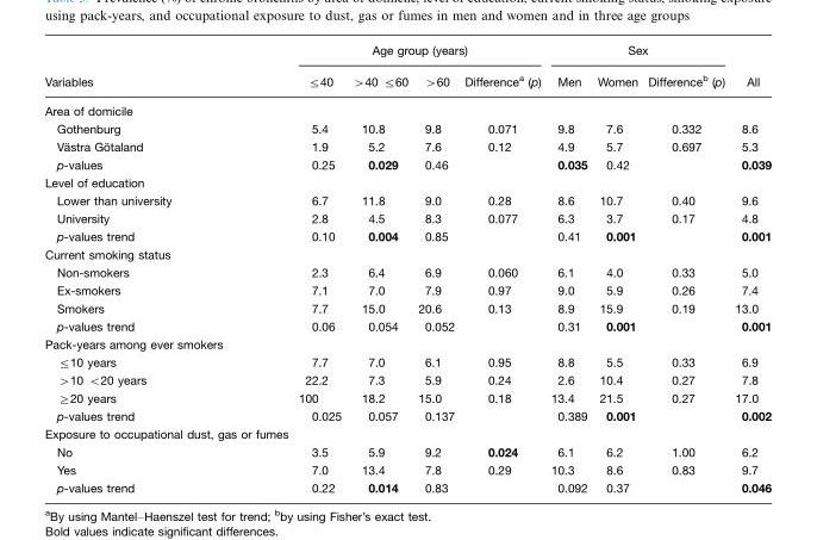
<table><thead><tr><td rowspan="2">Variables</td><td colspan="4">Age group (years)</td><td colspan="3">Sex</td><td rowspan="2">All</td></tr><tr><td>≤40</td><td>&gt;40 ≤60</td><td>&gt;60</td><td>Difference<sup>a</sup> (p)</td><td>Men</td><td>Women</td><td>Difference<sup>b</sup> (p)</td></tr></thead><tbody><tr><td colspan="9">Area of domicile</td></tr><tr><td>Gothenburg</td><td>5.4</td><td>10.8</td><td>9.8</td><td>0.071</td><td>9.8</td><td>7.6</td><td>0.332</td><td>8.6</td></tr><tr><td>Va¨ stra Go¨ taland</td><td>1.9</td><td>5.2</td><td>7.6</td><td>0.12</td><td>4.9</td><td>5.7</td><td>0.697</td><td>5.3</td></tr><tr><td>p-values</td><td>0.25</td><td>0.029</td><td>0.46</td><td></td><td>0.035</td><td>0.42</td><td></td><td>0.039</td></tr><tr><td colspan="9">Level of education</td></tr><tr><td>Lower than university</td><td>6.7</td><td>11.8</td><td>9.0</td><td>0.28</td><td>8.6</td><td>10.7</td><td>0.40</td><td>9.6</td></tr><tr><td>University</td><td>2.8</td><td>4.5</td><td>8.3</td><td>0.077</td><td>6.3</td><td>3.7</td><td>0.17</td><td>4.8</td></tr><tr><td>p-values trend</td><td>0.10</td><td>0.004</td><td>0.85</td><td></td><td>0.41</td><td>0.001</td><td></td><td>0.001</td></tr><tr><td colspan="9">Current smoking status</td></tr><tr><td>Non-smokers</td><td>2.3</td><td>6.4</td><td>6.9</td><td>0.060</td><td>6.1</td><td>4.0</td><td>0.33</td><td>5.0</td></tr><tr><td>Ex-smokers</td><td>7.1</td><td>7.0</td><td>7.9</td><td>0.97</td><td>9.0</td><td>5.9</td><td>0.26</td><td>7.4</td></tr><tr><td>Smokers</td><td>7.7</td><td>15.0</td><td>20.6</td><td>0.13</td><td>8.9</td><td>15.9</td><td>0.19</td><td>13.0</td></tr><tr><td>p-values trend</td><td>0.06</td><td>0.054</td><td>0.052</td><td></td><td>0.31</td><td>0.001</td><td></td><td>0.001</td></tr><tr><td colspan="9">Pack-years among ever smokers</td></tr><tr><td>≤10 years</td><td>7.7</td><td>7.0</td><td>6.1</td><td>0.95</td><td>8.8</td><td>5.5</td><td>0.33</td><td>6.9</td></tr><tr><td>&gt;10 &lt;20 years</td><td>22.2</td><td>7.3</td><td>5.9</td><td>0.24</td><td>2.6</td><td>10.4</td><td>0.27</td><td>7.8</td></tr><tr><td>≥20 years</td><td>100</td><td>18.2</td><td>15.0</td><td>0.18</td><td>13.4</td><td>21.5</td><td>0.27</td><td>17.0</td></tr><tr><td>p-values trend</td><td>0.025</td><td>0.057</td><td>0.137</td><td></td><td>0.389</td><td>0.001</td><td></td><td>0.002</td></tr><tr><td colspan="9">Exposure to occupational dust, gas or fumes</td></tr><tr><td>No</td><td>3.5</td><td>5.9</td><td>9.2</td><td>0.024</td><td>6.1</td><td>6.2</td><td>1.00</td><td>6.2</td></tr><tr><td>Yes</td><td>7.0</td><td>13.4</td><td>7.8</td><td>0.29</td><td>10.3</td><td>8.6</td><td>0.83</td><td>9.7</td></tr><tr><td>p-values trend</td><td>0.22</td><td>0.014</td><td>0.83</td><td></td><td>0.092</td><td>0.37</td><td></td><td>0.046</td></tr></tbody></table>